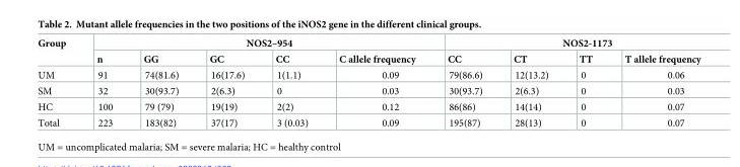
<table><thead><tr><td rowspan="2">Group</td><td colspan="5">NOS2–954</td><td colspan="4">NOS2-1173</td></tr><tr><td>n</td><td>GG</td><td>GC</td><td>CC</td><td>C allele frequency</td><td>CC</td><td>CT</td><td>TT</td><td>T allele frequency</td></tr></thead><tbody><tr><td>UM</td><td>91</td><td>74(81.6)</td><td>16(17.6)</td><td>1(1.1)</td><td>0.09</td><td>79(86.6)</td><td>12(13.2)</td><td>0</td><td>0.06</td></tr><tr><td>SM</td><td>32</td><td>30(93.7)</td><td>2(6.3)</td><td>0</td><td>0.03</td><td>30(93.7)</td><td>2(6.3)</td><td>0</td><td>0.03</td></tr><tr><td>HC</td><td>100</td><td>79 (79)</td><td>19(19)</td><td>2(2)</td><td>0.12</td><td>86(86)</td><td>14(14)</td><td>0</td><td>0.07</td></tr><tr><td>Total</td><td>223</td><td>183(82)</td><td>37(17)</td><td>3 (0.03)</td><td>0.09</td><td>195(87)</td><td>28(13)</td><td>0</td><td>0.07</td></tr></tbody></table>